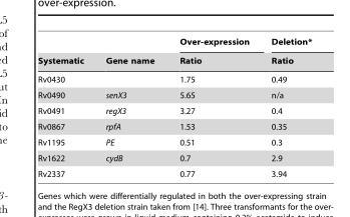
<table><thead><tr><td rowspan="2">Systematic</td><td rowspan="2">Gene name</td><td rowspan="2">Over-expression Ratio</td><td rowspan="2">Deletion* Ratio</td></tr><tr></tr></thead><tbody><tr><td>Rv0430</td><td></td><td>1.75</td><td>0.49</td></tr><tr><td>Rv0490</td><td>senX3</td><td>5.65</td><td>n/a</td></tr><tr><td>Rv0491</td><td>regX3</td><td>3.27</td><td>0.4</td></tr><tr><td>Rv0867</td><td>rpfA</td><td>1.53</td><td>0.35</td></tr><tr><td>Rv1195</td><td>PE</td><td>0.51</td><td>0.3</td></tr><tr><td>Rv1622</td><td>cydB</td><td>0.7</td><td>2.9</td></tr><tr><td>Rv2337</td><td></td><td>0.77</td><td>3.94</td></tr></tbody></table>